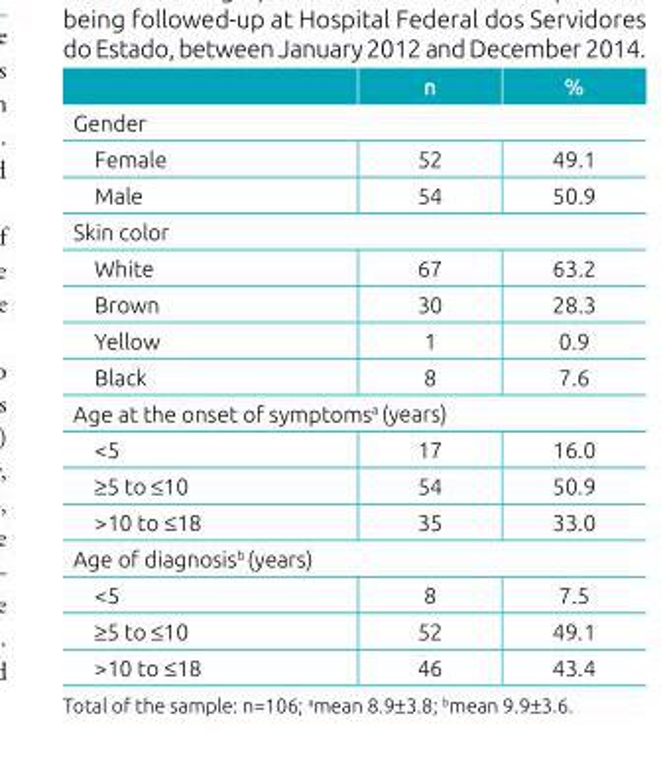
<table><thead><tr><td></td><td>n</td><td>%</td></tr></thead><tbody><tr><td colspan="3">Gender</td></tr><tr><td>Female</td><td>52</td><td>49.1</td></tr><tr><td>Male</td><td>54</td><td>50.9</td></tr><tr><td colspan="3">Skin color</td></tr><tr><td>White</td><td>67</td><td>63.2</td></tr><tr><td>Brown</td><td>30</td><td>28.3</td></tr><tr><td>Yellow</td><td>1</td><td>0.9</td></tr><tr><td>Black</td><td>8</td><td>7.6</td></tr><tr><td colspan="3">Age at the onset of symptoms<sup>a</sup> (years)</td></tr><tr><td>&lt;5</td><td>17</td><td>16.0</td></tr><tr><td>≥5 to ≤10</td><td>54</td><td>50.9</td></tr><tr><td>&gt;10 to ≤18</td><td>35</td><td>33.0</td></tr><tr><td colspan="3">Age of diagnosis<sup>b</sup> (years)</td></tr><tr><td>&lt;5</td><td>8</td><td>7.5</td></tr><tr><td>≥5 to ≤10</td><td>52</td><td>49.1</td></tr><tr><td>&gt;10 to ≤18</td><td>46</td><td>43.4</td></tr></tbody></table>